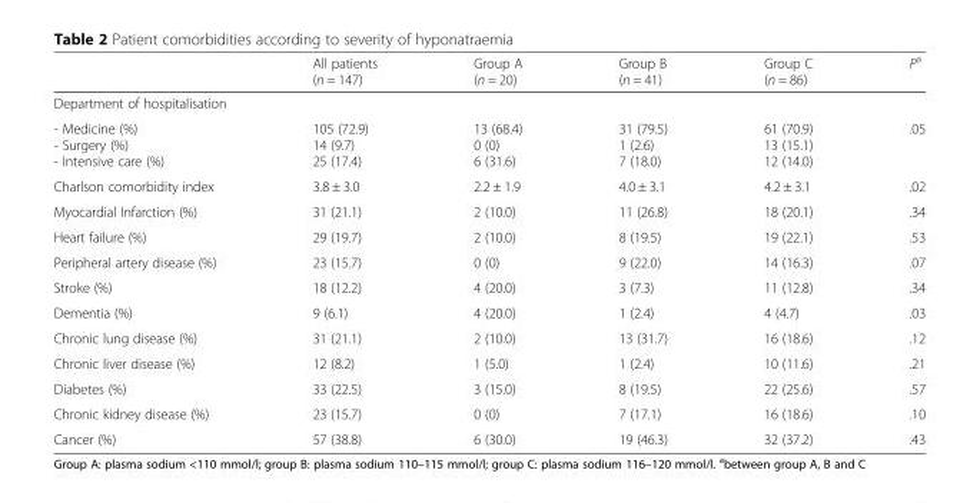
<table><thead><tr><td></td><td>All patients (n = 147)</td><td>Group A (n = 20)</td><td>Group B (n = 41)</td><td>Group C (n = 86)</td><td>P<sup>a</sup></td></tr></thead><tbody><tr><td colspan="6">Department of hospitalisation</td></tr><tr><td>- Medicine (%) - Surgery (%) - Intensive care (%)</td><td>105 (72.9) 14 (9.7) 25 (17.4)</td><td>13 (68.4) 0 (0) 6 (31.6)</td><td>31 (79.5) 1 (2.6) 7 (18.0)</td><td>61 (70.9) 13 (15.1) 12 (14.0)</td><td>.05</td></tr><tr><td>Charlson comorbidity index</td><td>3.8 ± 3.0</td><td>2.2 ± 1.9</td><td>4.0 ± 3.1</td><td>4.2 ± 3.1</td><td>.02</td></tr><tr><td>Myocardial Infarction (%)</td><td>31 (21.1)</td><td>2 (10.0)</td><td>11 (26.8)</td><td>18 (20.1)</td><td>.34</td></tr><tr><td>Heart failure (%)</td><td>29 (19.7)</td><td>2 (10.0)</td><td>8 (19.5)</td><td>19 (22.1)</td><td>.53</td></tr><tr><td>Peripheral artery disease (%)</td><td>23 (15.7)</td><td>0 (0)</td><td>9 (22.0)</td><td>14 (16.3)</td><td>.07</td></tr><tr><td>Stroke (%)</td><td>18 (12.2)</td><td>4 (20.0)</td><td>3 (7.3)</td><td>11 (12.8)</td><td>.34</td></tr><tr><td>Dementia (%)</td><td>9 (6.1)</td><td>4 (20.0)</td><td>1 (2.4)</td><td>4 (4.7)</td><td>.03</td></tr><tr><td>Chronic lung disease (%)</td><td>31 (21.1)</td><td>2 (10.0)</td><td>13 (31.7)</td><td>16 (18.6)</td><td>.12</td></tr><tr><td>Chronic liver disease (%)</td><td>12 (8.2)</td><td>1 (5.0)</td><td>1 (2.4)</td><td>10 (11.6)</td><td>.21</td></tr><tr><td>Diabetes (%)</td><td>33 (22.5)</td><td>3 (15.0)</td><td>8 (19.5)</td><td>22 (25.6)</td><td>.57</td></tr><tr><td>Chronic kidney disease (%)</td><td>23 (15.7)</td><td>0 (0)</td><td>7 (17.1)</td><td>16 (18.6)</td><td>.10</td></tr><tr><td>Cancer (%)</td><td>57 (38.8)</td><td>6 (30.0)</td><td>19 (46.3)</td><td>32 (37.2)</td><td>.43</td></tr></tbody></table>